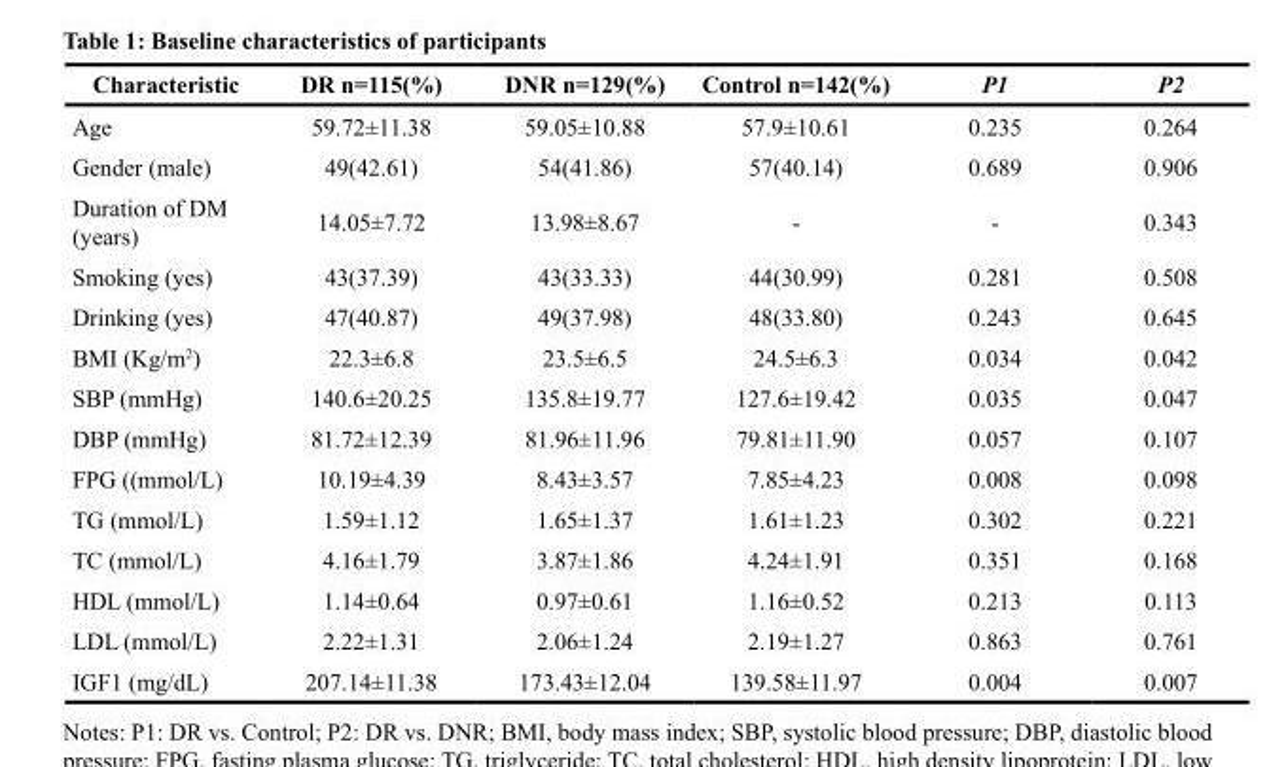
<table><thead><tr><td>Characteristic</td><td>DR n=115(%)</td><td>DNR n=129(%)</td><td>Control n=142(%)</td><td>P1</td><td>P2</td></tr></thead><tbody><tr><td>Age</td><td>59.72±11.38</td><td>59.05±10.88</td><td>57.9±10.61</td><td>0.235</td><td>0.264</td></tr><tr><td>Gender (male)</td><td>49(42.61)</td><td>54(41.86)</td><td>57(40.14)</td><td>0.689</td><td>0.906</td></tr><tr><td>Duration of DM (years)</td><td>14.05±7.72</td><td>13.98±8.67</td><td>-</td><td>-</td><td>0.343</td></tr><tr><td>Smoking (yes)</td><td>43(37.39)</td><td>43(33.33)</td><td>44(30.99)</td><td>0.281</td><td>0.508</td></tr><tr><td>Drinking (yes)</td><td>47(40.87)</td><td>49(37.98)</td><td>48(33.80)</td><td>0.243</td><td>0.645</td></tr><tr><td>BMI (Kg/m<sup>2</sup>)</td><td>22.3±6.8</td><td>23.5±6.5</td><td>24.5±6.3</td><td>0.034</td><td>0.042</td></tr><tr><td>SBP (mmHg)</td><td>140.6±20.25</td><td>135.8±19.77</td><td>127.6±19.42</td><td>0.035</td><td>0.047</td></tr><tr><td>DBP (mmHg)</td><td>81.72±12.39</td><td>81.96±11.96</td><td>79.81±11.90</td><td>0.057</td><td>0.107</td></tr><tr><td>FPG ((mmol/L)</td><td>10.19±4.39</td><td>8.43±3.57</td><td>7.85±4.23</td><td>0.008</td><td>0.098</td></tr><tr><td>TG (mmol/L)</td><td>1.59±1.12</td><td>1.65±1.37</td><td>1.61±1.23</td><td>0.302</td><td>0.221</td></tr><tr><td>TC (mmol/L)</td><td>4.16±1.79</td><td>3.87±1.86</td><td>4.24±1.91</td><td>0.351</td><td>0.168</td></tr><tr><td>HDL (mmol/L)</td><td>1.14±0.64</td><td>0.97±0.61</td><td>1.16±0.52</td><td>0.213</td><td>0.113</td></tr><tr><td>LDL (mmol/L)</td><td>2.22±1.31</td><td>2.06±1.24</td><td>2.19±1.27</td><td>0.863</td><td>0.761</td></tr><tr><td>IGF1 (mg/dL)</td><td>207.14±11.38</td><td>173.43±12.04</td><td>139.58±11.97</td><td>0.004</td><td>0.007</td></tr></tbody></table>